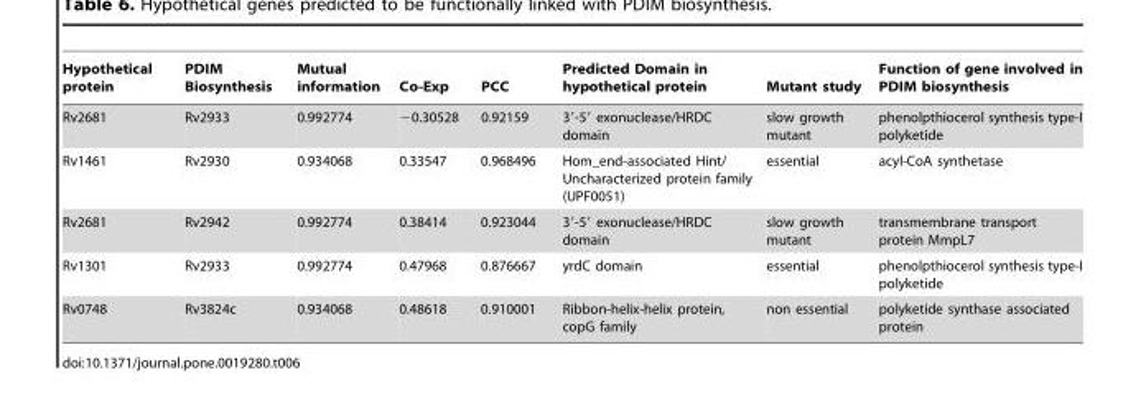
<table><thead><tr><td>Hypothetical protein</td><td>PDIM Biosynthesis</td><td>Mutual information</td><td>Co-Exp</td><td>PCC</td><td>Predicted Domain in hypothetical protein</td><td>Mutant study</td><td>Function of gene involved in PDIM biosynthesis</td></tr></thead><tbody><tr><td>Rv2681</td><td>Rv2933</td><td>0.992774</td><td>−0.30528</td><td>0.92159</td><td>3′-5′ exonuclease/HRDC domain</td><td>slow growth mutant</td><td>phenolpthiocerol synthesis type-I polyketide</td></tr><tr><td>Rv1461</td><td>Rv2930</td><td>0.934068</td><td>0.33547</td><td>0.968496</td><td>Hom_end-associated Hint/ Uncharacterized protein family (UPF0051)</td><td>essential</td><td>acyl-CoA synthetase</td></tr><tr><td>Rv2681</td><td>Rv2942</td><td>0.992774</td><td>0.38414</td><td>0.923044</td><td>3′-5′ exonuclease/HRDC domain</td><td>slow growth mutant</td><td>transmembrane transport protein MmpL7</td></tr><tr><td>Rv1301</td><td>Rv2933</td><td>0.992774</td><td>0.47968</td><td>0.876667</td><td>yrdC domain</td><td>essential</td><td>phenolpthiocerol synthesis type-I polyketide</td></tr><tr><td>Rv0748</td><td>Rv3824c</td><td>0.934068</td><td>0.48618</td><td>0.910001</td><td>Ribbon-helix-helix protein, copG family</td><td>non essential</td><td>polyketide synthase associated protein</td></tr></tbody></table>